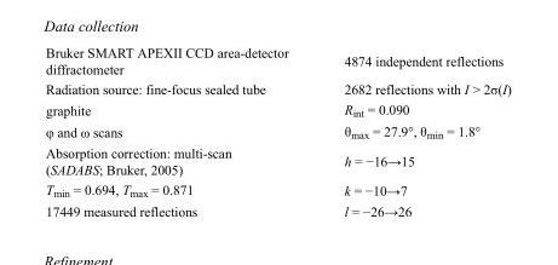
<table><tbody><tr><td>Bruker SMART APEXII CCD area-detector diffractometer</td><td>4874 independent reflections</td></tr><tr><td>Radiation source: fine-focus sealed tube</td><td>2682 reflections with I &gt; 2σ(I)</td></tr><tr><td>graphite</td><td>R<sub>int</sub> = 0.090</td></tr><tr><td>φ and ω scans</td><td>θ<sub>max</sub> = 27.9°, θ<sub>min</sub> = 1.8°</td></tr><tr><td>Absorption correction: multi-scan (SADABS; Bruker, 2005)</td><td>h = −16→15</td></tr><tr><td>T<sub>min</sub> = 0.694, T<sub>max</sub> = 0.871</td><td>k = −10→7</td></tr><tr><td>17449 measured reflections</td><td>l = −26→26</td></tr></tbody></table>